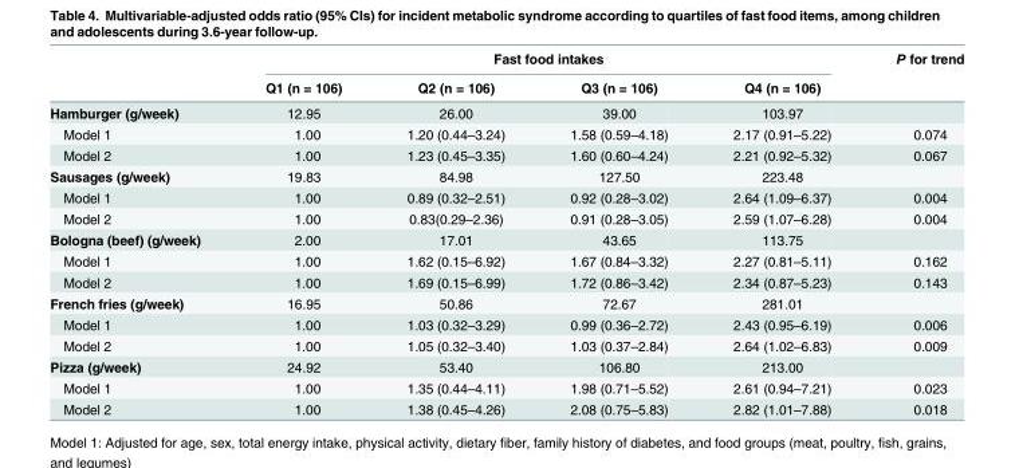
<table><thead><tr><td rowspan="2"></td><td colspan="4">Fast food intakes</td><td rowspan="2">P for trend</td></tr><tr><td>Q1 (n = 106)</td><td>Q2 (n = 106)</td><td>Q3 (n = 106)</td><td>Q4 (n = 106)</td></tr></thead><tbody><tr><td>Hamburger (g/week)</td><td>12.95</td><td>26.00</td><td>39.00</td><td>103.97</td><td></td></tr><tr><td>Model 1</td><td>1.00</td><td>1.20 (0.44–3.24)</td><td>1.58 (0.59–4.18)</td><td>2.17 (0.91–5.22)</td><td>0.074</td></tr><tr><td>Model 2</td><td>1.00</td><td>1.23 (0.45–3.35)</td><td>1.60 (0.60–4.24)</td><td>2.21 (0.92–5.32)</td><td>0.067</td></tr><tr><td>Sausages (g/week)</td><td>19.83</td><td>84.98</td><td>127.50</td><td>223.48</td><td></td></tr><tr><td>Model 1</td><td>1.00</td><td>0.89 (0.32–2.51)</td><td>0.92 (0.28–3.02)</td><td>2.64 (1.09–6.37)</td><td>0.004</td></tr><tr><td>Model 2</td><td>1.00</td><td>0.83(0.29–2.36)</td><td>0.91 (0.28–3.05)</td><td>2.59 (1.07–6.28)</td><td>0.004</td></tr><tr><td>Bologna (beef) (g/week)</td><td>2.00</td><td>17.01</td><td>43.65</td><td>113.75</td><td></td></tr><tr><td>Model 1</td><td>1.00</td><td>1.62 (0.15–6.92)</td><td>1.67 (0.84–3.32)</td><td>2.27 (0.81–5.11)</td><td>0.162</td></tr><tr><td>Model 2</td><td>1.00</td><td>1.69 (0.15–6.99)</td><td>1.72 (0.86–3.42)</td><td>2.34 (0.87–5.23)</td><td>0.143</td></tr><tr><td>French fries (g/week)</td><td>16.95</td><td>50.86</td><td>72.67</td><td>281.01</td><td></td></tr><tr><td>Model 1</td><td>1.00</td><td>1.03 (0.32–3.29)</td><td>0.99 (0.36–2.72)</td><td>2.43 (0.95–6.19)</td><td>0.006</td></tr><tr><td>Model 2</td><td>1.00</td><td>1.05 (0.32–3.40)</td><td>1.03 (0.37–2.84)</td><td>2.64 (1.02–6.83)</td><td>0.009</td></tr><tr><td>Pizza (g/week)</td><td>24.92</td><td>53.40</td><td>106.80</td><td>213.00</td><td></td></tr><tr><td>Model 1</td><td>1.00</td><td>1.35 (0.44–4.11)</td><td>1.98 (0.71–5.52)</td><td>2.61 (0.94–7.21)</td><td>0.023</td></tr><tr><td>Model 2</td><td>1.00</td><td>1.38 (0.45–4.26)</td><td>2.08 (0.75–5.83)</td><td>2.82 (1.01–7.88)</td><td>0.018</td></tr></tbody></table>